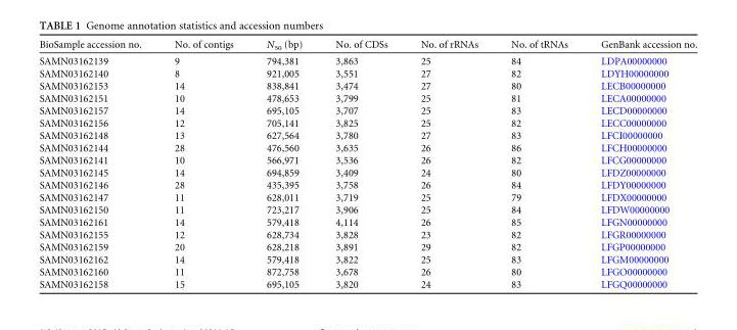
<table><thead><tr><td>BioSample accession no.</td><td>No. of contigs</td><td>N<sub>50</sub> (bp)</td><td>No. of CDSs</td><td>No. of rRNAs</td><td>No. of tRNAs</td><td>GenBank accession no.</td></tr></thead><tbody><tr><td>SAMN03162139</td><td>9</td><td>794,381</td><td>3,863</td><td>25</td><td>84</td><td>LDPA00000000</td></tr><tr><td>SAMN03162140</td><td>8</td><td>921,005</td><td>3,551</td><td>27</td><td>82</td><td>LDYH00000000</td></tr><tr><td>SAMN03162153</td><td>14</td><td>838,841</td><td>3,474</td><td>27</td><td>80</td><td>LECB00000000</td></tr><tr><td>SAMN03162151</td><td>10</td><td>478,653</td><td>3,799</td><td>25</td><td>81</td><td>LECA00000000</td></tr><tr><td>SAMN03162157</td><td>14</td><td>695,105</td><td>3,707</td><td>25</td><td>83</td><td>LECD00000000</td></tr><tr><td>SAMN03162156</td><td>12</td><td>705,141</td><td>3,825</td><td>25</td><td>82</td><td>LECC00000000</td></tr><tr><td>SAMN03162148</td><td>13</td><td>627,564</td><td>3,780</td><td>27</td><td>83</td><td>LFCI00000000</td></tr><tr><td>SAMN03162144</td><td>28</td><td>476,560</td><td>3,635</td><td>26</td><td>86</td><td>LFCH00000000</td></tr><tr><td>SAMN03162141</td><td>10</td><td>566,971</td><td>3,536</td><td>26</td><td>82</td><td>LFCG00000000</td></tr><tr><td>SAMN03162145</td><td>14</td><td>694,859</td><td>3,409</td><td>24</td><td>80</td><td>LFDZ00000000</td></tr><tr><td>SAMN03162146</td><td>28</td><td>435,395</td><td>3,758</td><td>26</td><td>84</td><td>LFDY00000000</td></tr><tr><td>SAMN03162147</td><td>11</td><td>628,011</td><td>3,719</td><td>25</td><td>79</td><td>LFDX00000000</td></tr><tr><td>SAMN03162150</td><td>11</td><td>723,217</td><td>3,906</td><td>25</td><td>84</td><td>LFDW00000000</td></tr><tr><td>SAMN03162161</td><td>14</td><td>579,418</td><td>4,114</td><td>26</td><td>85</td><td>LFGN00000000</td></tr><tr><td>SAMN03162155</td><td>12</td><td>628,734</td><td>3,828</td><td>23</td><td>82</td><td>LFGR00000000</td></tr><tr><td>SAMN03162159</td><td>20</td><td>628,218</td><td>3,891</td><td>29</td><td>82</td><td>LFGP00000000</td></tr><tr><td>SAMN03162162</td><td>14</td><td>579,418</td><td>3,822</td><td>25</td><td>83</td><td>LFGM00000000</td></tr><tr><td>SAMN03162160</td><td>11</td><td>872,758</td><td>3,678</td><td>26</td><td>80</td><td>LFGO00000000</td></tr><tr><td>SAMN03162158</td><td>15</td><td>695,105</td><td>3,820</td><td>24</td><td>83</td><td>LFGQ00000000</td></tr></tbody></table>